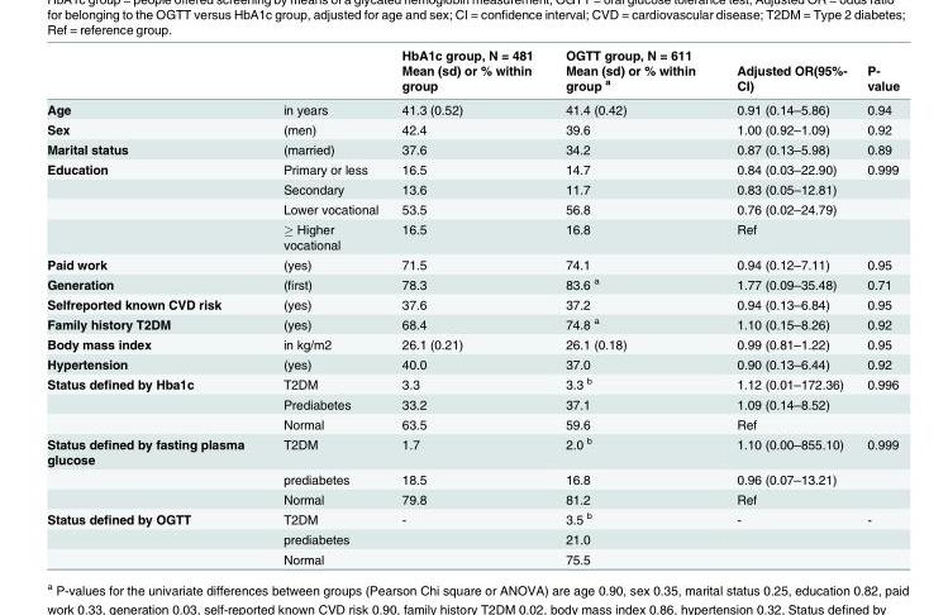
<table><thead><tr><td rowspan="2"></td><td rowspan="2"></td><td rowspan="2">HbA1c group, N = 481 Mean (sd) or % within group</td><td rowspan="2">OGTT group, N = 611 Mean (sd) or % within group <sup>a</sup></td><td rowspan="2">Adjusted OR(95%- CI)</td><td rowspan="2">P- value</td></tr><tr></tr></thead><tbody><tr><td>Age</td><td>in years</td><td>41.3 (0.52)</td><td>41.4 (0.42)</td><td>0.91 (0.14–5.86)</td><td>0.94</td></tr><tr><td>Sex</td><td>(men)</td><td>42.4</td><td>39.6</td><td>1.00 (0.92–1.09)</td><td>0.92</td></tr><tr><td>Marital status</td><td>(married)</td><td>37.6</td><td>34.2</td><td>0.87 (0.13–5.98)</td><td>0.89</td></tr><tr><td rowspan="4">Education</td><td>Primary or less</td><td>16.5</td><td>14.7</td><td>0.84 (0.03–22.90)</td><td>0.999</td></tr><tr><td>Secondary</td><td>13.6</td><td>11.7</td><td>0.83 (0.05–12.81)</td><td></td></tr><tr><td>Lower vocational</td><td>53.5</td><td>56.8</td><td>0.76 (0.02–24.79)</td><td></td></tr><tr><td>≥ Higher vocational</td><td>16.5</td><td>16.8</td><td>Ref</td><td></td></tr><tr><td>Paid work</td><td>(yes)</td><td>71.5</td><td>74.1</td><td>0.94 (0.12–7.11)</td><td>0.95</td></tr><tr><td>Generation</td><td>(first)</td><td>78.3</td><td>83.6 <sup>a</sup></td><td>1.77 (0.09–35.48)</td><td>0.71</td></tr><tr><td>Selfreported known CVD risk</td><td>(yes)</td><td>37.6</td><td>37.2</td><td>0.94 (0.13–6.84)</td><td>0.95</td></tr><tr><td>Family history T2DM</td><td>(yes)</td><td>68.4</td><td>74.8 <sup>a</sup></td><td>1.10 (0.15–8.26)</td><td>0.92</td></tr><tr><td>Body mass index</td><td>in kg/m2</td><td>26.1 (0.21)</td><td>26.1 (0.18)</td><td>0.99 (0.81–1.22)</td><td>0.95</td></tr><tr><td>Hypertension</td><td>(yes)</td><td>40.0</td><td>37.0</td><td>0.90 (0.13–6.44)</td><td>0.92</td></tr><tr><td rowspan="3">Status defined by Hba1c</td><td>T2DM</td><td>3.3</td><td>3.3 <sup>b</sup></td><td>1.12 (0.01–172.36)</td><td>0.996</td></tr><tr><td>Prediabetes</td><td>33.2</td><td>37.1</td><td>1.09 (0.14–8.52)</td><td></td></tr><tr><td>Normal</td><td>63.5</td><td>59.6</td><td>Ref</td><td></td></tr><tr><td rowspan="3">Status defined by fasting plasma glucose</td><td>T2DM</td><td>1.7</td><td>2.0 <sup>b</sup></td><td>1.10 (0.00–855.10)</td><td>0.999</td></tr><tr><td>prediabetes</td><td>18.5</td><td>16.8</td><td>0.96 (0.07–13.21)</td><td></td></tr><tr><td>Normal</td><td>79.8</td><td>81.2</td><td>Ref</td><td></td></tr><tr><td rowspan="3">Status defined by OGTT</td><td>T2DM</td><td>-</td><td>3.5 <sup>b</sup></td><td>-</td><td>-</td></tr><tr><td>prediabetes</td><td></td><td>21.0</td><td></td><td></td></tr><tr><td>Normal</td><td></td><td>75.5</td><td></td><td></td></tr></tbody></table>